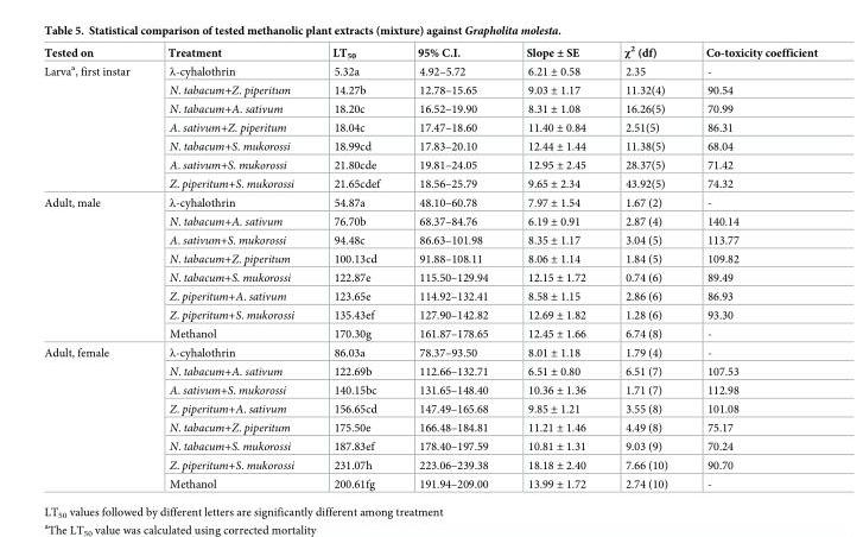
<table><thead><tr><td>Tested on</td><td>Treatment</td><td>LT<sub>50</sub></td><td>95% C.I.</td><td>Slope ± SE</td><td>χ<sup>2</sup> (df)</td><td>Co-toxicity coefficient</td></tr></thead><tbody><tr><td rowspan="7">Larva<sup>a</sup>, first instar</td><td>λ-cyhalothrin</td><td>5.32a</td><td>4.92–5.72</td><td>6.21 ± 0.58</td><td>2.35</td><td>-</td></tr><tr><td>N. tabacum+Z. piperitum</td><td>14.27b</td><td>12.78–15.65</td><td>9.03 ± 1.17</td><td>11.32(4)</td><td>90.54</td></tr><tr><td>N. tabacum+A. sativum</td><td>18.20c</td><td>16.52–19.90</td><td>8.31 ± 1.08</td><td>16.26(5)</td><td>70.99</td></tr><tr><td>A. sativum+Z. piperitum</td><td>18.04c</td><td>17.47–18.60</td><td>11.40 ± 0.84</td><td>2.51(5)</td><td>86.31</td></tr><tr><td>N. tabacum+S. mukorossi</td><td>18.99cd</td><td>17.83–20.10</td><td>12.44 ± 1.44</td><td>11.38(5)</td><td>68.04</td></tr><tr><td>A. sativum+S. mukorossi</td><td>21.80cde</td><td>19.81–24.05</td><td>12.95 ± 2.45</td><td>28.37(5)</td><td>71.42</td></tr><tr><td>Z. piperitum+S. mukorossi</td><td>21.65cdef</td><td>18.56–25.79</td><td>9.65 ± 2.34</td><td>43.92(5)</td><td>74.32</td></tr><tr><td rowspan="8">Adult, male</td><td>λ-cyhalothrin</td><td>54.87a</td><td>48.10–60.78</td><td>7.97 ± 1.54</td><td>1.67 (2)</td><td>-</td></tr><tr><td>N. tabacum+A. sativum</td><td>76.70b</td><td>68.37–84.76</td><td>6.19 ± 0.91</td><td>2.87 (4)</td><td>140.14</td></tr><tr><td>A. sativum+S. mukorossi</td><td>94.48c</td><td>86.63–101.98</td><td>8.35 ± 1.17</td><td>3.04 (5)</td><td>113.77</td></tr><tr><td>N. tabacum+Z. piperitum</td><td>100.13cd</td><td>91.88–108.11</td><td>8.06 ± 1.14</td><td>1.84 (5)</td><td>109.82</td></tr><tr><td>N. tabacum+S. mukorossi</td><td>122.87e</td><td>115.50–129.94</td><td>12.15 ± 1.72</td><td>0.74 (6)</td><td>89.49</td></tr><tr><td>Z. piperitum+A. sativum</td><td>123.65e</td><td>114.92–132.41</td><td>8.58 ± 1.15</td><td>2.86 (6)</td><td>86.93</td></tr><tr><td>Z. piperitum+S. mukorossi</td><td>135.43ef</td><td>127.90–142.82</td><td>12.69 ± 1.82</td><td>1.28 (6)</td><td>93.30</td></tr><tr><td>Methanol</td><td>170.30g</td><td>161.87–178.65</td><td>12.45 ± 1.66</td><td>6.74 (8)</td><td>-</td></tr><tr><td rowspan="8">Adult, female</td><td>λ-cyhalothrin</td><td>86.03a</td><td>78.37–93.50</td><td>8.01 ± 1.18</td><td>1.79 (4)</td><td>-</td></tr><tr><td>N. tabacum+A. sativum</td><td>122.69b</td><td>112.66–132.71</td><td>6.51 ± 0.80</td><td>6.51 (7)</td><td>107.53</td></tr><tr><td>A. sativum+S. mukorossi</td><td>140.15bc</td><td>131.65–148.40</td><td>10.36 ± 1.36</td><td>1.71 (7)</td><td>112.98</td></tr><tr><td>Z. piperitum+A. sativum</td><td>156.65cd</td><td>147.49–165.68</td><td>9.85 ± 1.21</td><td>3.55 (8)</td><td>101.08</td></tr><tr><td>N. tabacum+Z. piperitum</td><td>175.50e</td><td>166.48–184.81</td><td>11.21 ± 1.46</td><td>4.49 (8)</td><td>75.17</td></tr><tr><td>N. tabacum+S. mukorossi</td><td>187.83ef</td><td>178.40–197.59</td><td>10.81 ± 1.31</td><td>9.03 (9)</td><td>70.24</td></tr><tr><td>Z. piperitum+S. mukorossi</td><td>231.07h</td><td>223.06–239.38</td><td>18.18 ± 2.40</td><td>7.66 (10)</td><td>90.70</td></tr><tr><td>Methanol</td><td>200.61fg</td><td>191.94–209.00</td><td>13.99 ± 1.72</td><td>2.74 (10)</td><td>-</td></tr></tbody></table>